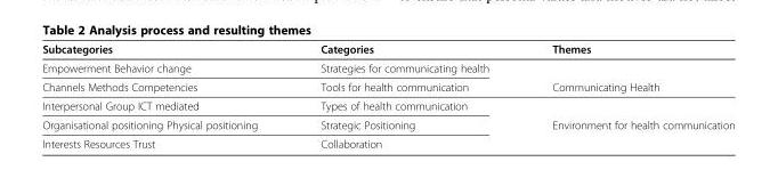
<table><thead><tr><td>Subcategories</td><td>Categories</td><td>Themes</td></tr></thead><tbody><tr><td>Empowerment Behavior change</td><td>Strategies for communicating health</td><td></td></tr><tr><td>Channels Methods Competencies</td><td>Tools for health communication</td><td>Communicating Health</td></tr><tr><td>Interpersonal Group ICT mediated</td><td>Types of health communication</td><td></td></tr><tr><td>Organisational positioning Physical positioning</td><td>Strategic Positioning</td><td rowspan="2">Environment for health communication</td></tr><tr><td>Interests Resources Trust</td><td>Collaboration</td></tr></tbody></table>